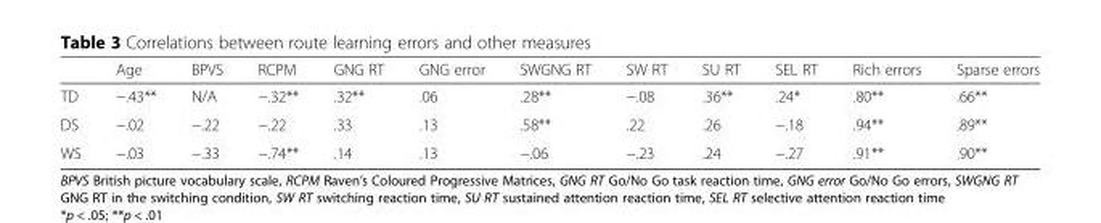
<table><thead><tr><td></td><td>Age</td><td>BPVS</td><td>RCPM</td><td>GNG RT</td><td>GNG error</td><td>SWGNG RT</td><td>SW RT</td><td>SU RT</td><td>SEL RT</td><td>Rich errors</td><td>Sparse errors</td></tr></thead><tbody><tr><td>TD</td><td>−.43**</td><td>N/A</td><td>−.32**</td><td>.32**</td><td>.06</td><td>.28**</td><td>−.08</td><td>.36**</td><td>.24*</td><td>.80**</td><td>.66**</td></tr><tr><td>DS</td><td>−.02</td><td>−.22</td><td>−.22</td><td>.33</td><td>.13</td><td>.58**</td><td>.22</td><td>.26</td><td>−.18</td><td>.94**</td><td>.89**</td></tr><tr><td>WS</td><td>−.03</td><td>−.33</td><td>−.74**</td><td>.14</td><td>.13</td><td>−.06</td><td>−.23</td><td>.24</td><td>−.27</td><td>.91**</td><td>.90**</td></tr></tbody></table>